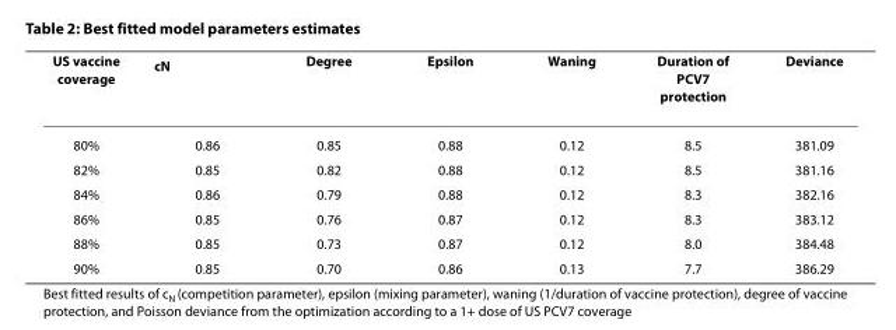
<table><thead><tr><td>US vaccine coverage</td><td>c<sub>N</sub></td><td>Degree</td><td>Epsilon</td><td>Waning</td><td>Duration of PCV7 protection</td><td>Deviance</td></tr></thead><tbody><tr><td>80%</td><td>0.86</td><td>0.85</td><td>0.88</td><td>0.12</td><td>8.5</td><td>381.09</td></tr><tr><td>82%</td><td>0.85</td><td>0.82</td><td>0.88</td><td>0.12</td><td>8.5</td><td>381.16</td></tr><tr><td>84%</td><td>0.86</td><td>0.79</td><td>0.88</td><td>0.12</td><td>8.3</td><td>382.16</td></tr><tr><td>86%</td><td>0.85</td><td>0.76</td><td>0.87</td><td>0.12</td><td>8.3</td><td>383.12</td></tr><tr><td>88%</td><td>0.85</td><td>0.73</td><td>0.87</td><td>0.12</td><td>8.0</td><td>384.48</td></tr><tr><td>90%</td><td>0.85</td><td>0.70</td><td>0.86</td><td>0.13</td><td>7.7</td><td>386.29</td></tr></tbody></table>